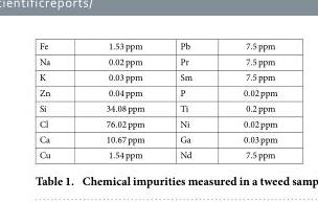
<table><tbody><tr><td>Fe</td><td>1.53 ppm</td><td>Pb</td><td>7.5 ppm</td></tr><tr><td>Na</td><td>0.02 ppm</td><td>Pr</td><td>7.5 ppm</td></tr><tr><td>K</td><td>0.03 ppm</td><td>Sm</td><td>7.5 ppm</td></tr><tr><td>Zn</td><td>0.04 ppm</td><td>P</td><td>0.02 ppm</td></tr><tr><td>Si</td><td>34.08 ppm</td><td>Ti</td><td>0.2 ppm</td></tr><tr><td>Cl</td><td>76.02 ppm</td><td>Ni</td><td>0.02 ppm</td></tr><tr><td>Ca</td><td>10.67 ppm</td><td>Ga</td><td>0.03 ppm</td></tr><tr><td>Cu</td><td>1.54 ppm</td><td>Nd</td><td>7.5 ppm</td></tr></tbody></table>